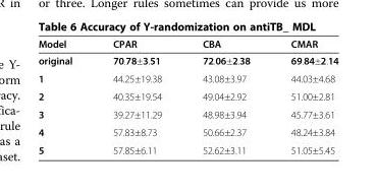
<table><thead><tr><td>Model</td><td>CPAR</td><td>CBA</td><td>CMAR</td></tr></thead><tbody><tr><td>original</td><td>70.78±3.51</td><td>72.06±2.38</td><td>69.84±2.14</td></tr><tr><td>1</td><td>44.25±19.38</td><td>43.08±3.97</td><td>44.03±4.68</td></tr><tr><td>2</td><td>40.35±19.54</td><td>49.04±2.92</td><td>51.00±2.81</td></tr><tr><td>3</td><td>39.27±11.29</td><td>48.98±3.94</td><td>45.77±3.61</td></tr><tr><td>4</td><td>57.83±8.73</td><td>50.66±2.37</td><td>48.24±3.84</td></tr><tr><td>5</td><td>57.85±6.11</td><td>52.62±3.11</td><td>51.05±5.45</td></tr></tbody></table>